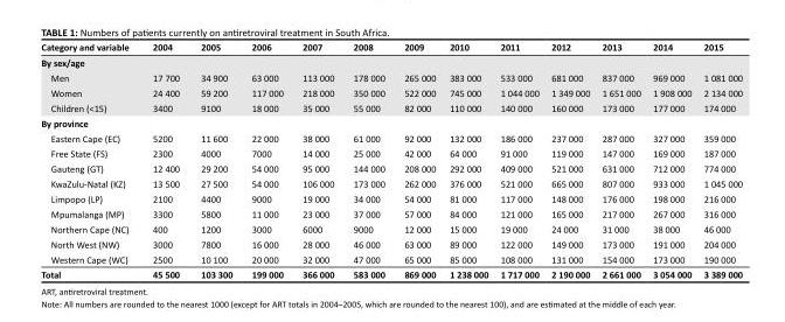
<table><thead><tr><td>Category and variable</td><td>2004</td><td>2005</td><td>2006</td><td>2007</td><td>2008</td><td>2009</td><td>2010</td><td>2011</td><td>2012</td><td>2013</td><td>2014</td><td>2015</td></tr></thead><tbody><tr><td colspan="13">By sex/age</td></tr><tr><td>Men</td><td>17 700</td><td>34 900</td><td>63 000</td><td>113 000</td><td>178 000</td><td>265 000</td><td>383 000</td><td>533 000</td><td>681 000</td><td>837 000</td><td>969 000</td><td>1 081 000</td></tr><tr><td>Women</td><td>24 400</td><td>59 200</td><td>117 000</td><td>218 000</td><td>350 000</td><td>522 000</td><td>745 000</td><td>1 044 000</td><td>1 349 000</td><td>1 651 000</td><td>1 908 000</td><td>2 134 000</td></tr><tr><td>Children (&lt;15)</td><td>3400</td><td>9100</td><td>18 000</td><td>35 000</td><td>55 000</td><td>82 000</td><td>110 000</td><td>140 000</td><td>160 000</td><td>173 000</td><td>177 000</td><td>174 000</td></tr><tr><td colspan="13">By province</td></tr><tr><td>Eastern Cape (EC)</td><td>5200</td><td>11 600</td><td>22 000</td><td>38 000</td><td>61 000</td><td>92 000</td><td>132 000</td><td>186 000</td><td>237 000</td><td>287 000</td><td>327 000</td><td>359 000</td></tr><tr><td>Free State (FS)</td><td>2300</td><td>4000</td><td>7000</td><td>14 000</td><td>25 000</td><td>42 000</td><td>64 000</td><td>91 000</td><td>119 000</td><td>147 000</td><td>169 000</td><td>187 000</td></tr><tr><td>Gauteng (GT)</td><td>12 400</td><td>29 200</td><td>54 000</td><td>95 000</td><td>144 000</td><td>208 000</td><td>292 000</td><td>409 000</td><td>521 000</td><td>631 000</td><td>712 000</td><td>774 000</td></tr><tr><td>KwaZulu-Natal (KZ)</td><td>13 500</td><td>27 500</td><td>54 000</td><td>106 000</td><td>173 000</td><td>262 000</td><td>376 000</td><td>521 000</td><td>665 000</td><td>807 000</td><td>933 000</td><td>1 045 000</td></tr><tr><td>Limpopo (LP)</td><td>2100</td><td>4400</td><td>9000</td><td>19 000</td><td>34 000</td><td>54 000</td><td>81 000</td><td>117 000</td><td>148 000</td><td>176 000</td><td>198 000</td><td>216 000</td></tr><tr><td>Mpumalanga (MP)</td><td>3300</td><td>5800</td><td>11 000</td><td>23 000</td><td>37 000</td><td>57 000</td><td>84 000</td><td>121 000</td><td>165 000</td><td>217 000</td><td>267 000</td><td>316 000</td></tr><tr><td>Northern Cape (NC)</td><td>400</td><td>1200</td><td>3000</td><td>6000</td><td>9000</td><td>12 000</td><td>15 000</td><td>19 000</td><td>24 000</td><td>31 000</td><td>38 000</td><td>46 000</td></tr><tr><td>North West (NW)</td><td>3000</td><td>7800</td><td>16 000</td><td>28 000</td><td>46 000</td><td>63 000</td><td>89 000</td><td>122 000</td><td>149 000</td><td>173 000</td><td>191 000</td><td>204 000</td></tr><tr><td>Western Cape (WC)</td><td>2500</td><td>10 100</td><td>20 000</td><td>32 000</td><td>47 000</td><td>65 000</td><td>85 000</td><td>108 000</td><td>131 000</td><td>154 000</td><td>173 000</td><td>190 000</td></tr><tr><td>Total</td><td>45 500</td><td>103 300</td><td>199 000</td><td>366 000</td><td>583 000</td><td>869 000</td><td>1 238 000</td><td>1 717 000</td><td>2 190 000</td><td>2 661 000</td><td>3 054 000</td><td>3 389 000</td></tr></tbody></table>